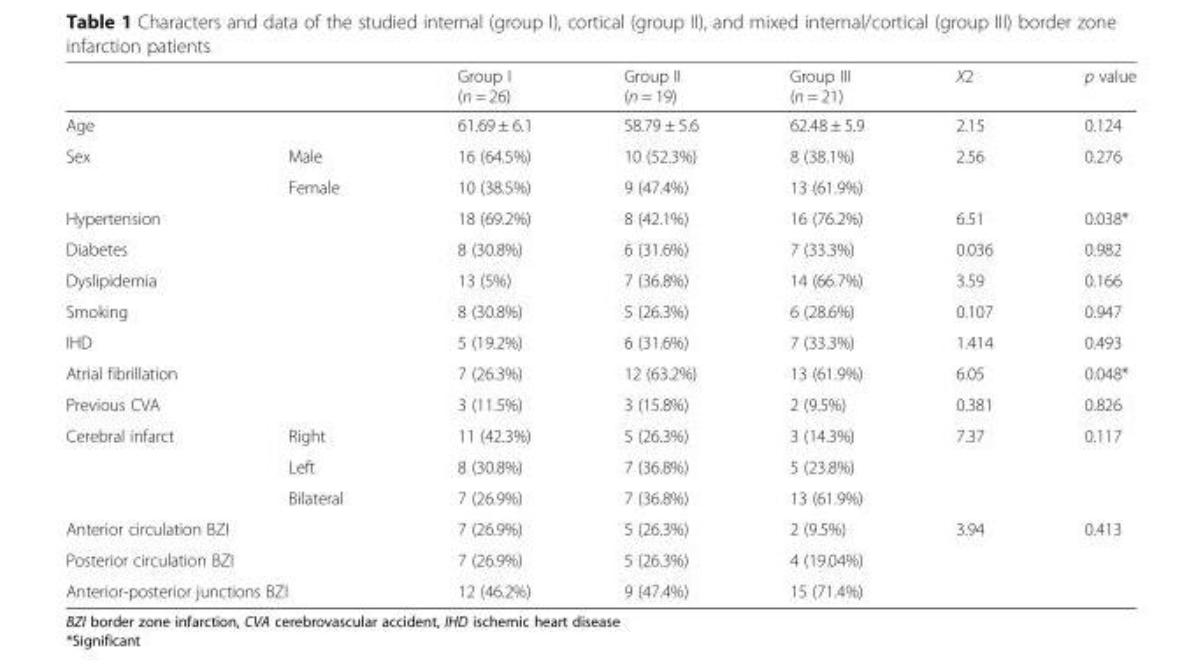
<table><thead><tr><td></td><td></td><td>Group I (n = 26)</td><td>Group II (n = 19)</td><td>Group III (n = 21)</td><td>X2</td><td>p value</td></tr></thead><tbody><tr><td colspan="2">Age</td><td>61.69 ± 6.1</td><td>58.79 ± 5.6</td><td>62.48 ± 5.9</td><td>2.15</td><td>0.124</td></tr><tr><td rowspan="2">Sex</td><td>Male</td><td>16 (64.5%)</td><td>10 (52.3%)</td><td>8 (38.1%)</td><td rowspan="2">2.56</td><td rowspan="2">0.276</td></tr><tr><td>Female</td><td>10 (38.5%)</td><td>9 (47.4%)</td><td>13 (61.9%)</td></tr><tr><td colspan="2">Hypertension</td><td>18 (69.2%)</td><td>8 (42.1%)</td><td>16 (76.2%)</td><td>6.51</td><td>0.038*</td></tr><tr><td colspan="2">Diabetes</td><td>8 (30.8%)</td><td>6 (31.6%)</td><td>7 (33.3%)</td><td>0.036</td><td>0.982</td></tr><tr><td colspan="2">Dyslipidemia</td><td>13 (5%)</td><td>7 (36.8%)</td><td>14 (66.7%)</td><td>3.59</td><td>0.166</td></tr><tr><td colspan="2">Smoking</td><td>8 (30.8%)</td><td>5 (26.3%)</td><td>6 (28.6%)</td><td>0.107</td><td>0.947</td></tr><tr><td colspan="2">IHD</td><td>5 (19.2%)</td><td>6 (31.6%)</td><td>7 (33.3%)</td><td>1.414</td><td>0.493</td></tr><tr><td colspan="2">Atrial fibrillation</td><td>7 (26.3%)</td><td>12 (63.2%)</td><td>13 (61.9%)</td><td>6.05</td><td>0.048*</td></tr><tr><td colspan="2">Previous CVA</td><td>3 (11.5%)</td><td>3 (15.8%)</td><td>2 (9.5%)</td><td>0.381</td><td>0.826</td></tr><tr><td rowspan="3">Cerebral infarct</td><td>Right</td><td>11 (42.3%)</td><td>5 (26.3%)</td><td>3 (14.3%)</td><td rowspan="3">7.37</td><td rowspan="3">0.117</td></tr><tr><td>Left</td><td>8 (30.8%)</td><td>7 (36.8%)</td><td>5 (23.8%)</td></tr><tr><td>Bilateral</td><td>7 (26.9%)</td><td>7 (36.8%)</td><td>13 (61.9%)</td></tr><tr><td colspan="2">Anterior circulation BZI</td><td>7 (26.9%)</td><td>5 (26.3%)</td><td>2 (9.5%)</td><td rowspan="3">3.94</td><td rowspan="3">0.413</td></tr><tr><td colspan="2">Posterior circulation BZI</td><td>7 (26.9%)</td><td>5 (26.3%)</td><td>4 (19.04%)</td></tr><tr><td colspan="2">Anterior-posterior junctions BZI</td><td>12 (46.2%)</td><td>9 (47.4%)</td><td>15 (71.4%)</td></tr></tbody></table>